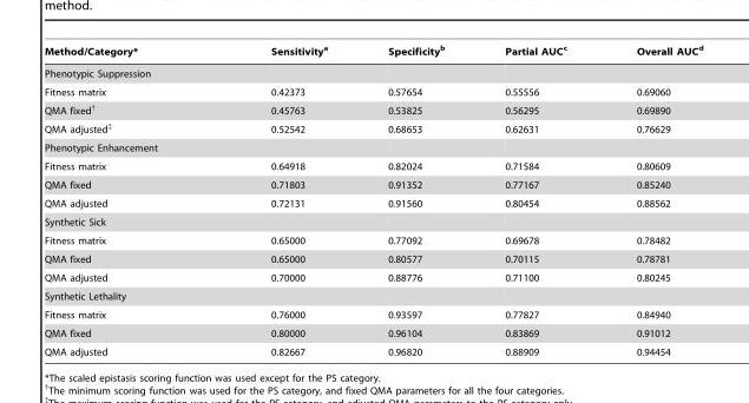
<table><thead><tr><td>Method/Category*</td><td>Sensitivity<sup>a</sup></td><td>Specificity<sup>b</sup></td><td>Partial AUC<sup>c</sup></td><td>Overall AUC<sup>d</sup></td></tr></thead><tbody><tr><td colspan="5">Phenotypic Suppression</td></tr><tr><td>Fitness matrix</td><td>0.42373</td><td>0.57654</td><td>0.55556</td><td>0.69060</td></tr><tr><td>QMA fixed†</td><td>0.45763</td><td>0.53825</td><td>0.56295</td><td>0.69890</td></tr><tr><td>QMA adjusted‡</td><td>0.52542</td><td>0.68653</td><td>0.62631</td><td>0.76629</td></tr><tr><td colspan="5">Phenotypic Enhancement</td></tr><tr><td>Fitness matrix</td><td>0.64918</td><td>0.82024</td><td>0.71584</td><td>0.80609</td></tr><tr><td>QMA fixed</td><td>0.71803</td><td>0.91352</td><td>0.77167</td><td>0.85240</td></tr><tr><td>QMA adjusted</td><td>0.72131</td><td>0.91560</td><td>0.80454</td><td>0.88562</td></tr><tr><td colspan="5">Synthetic Sick</td></tr><tr><td>Fitness matrix</td><td>0.65000</td><td>0.77092</td><td>0.69678</td><td>0.78482</td></tr><tr><td>QMA fixed</td><td>0.65000</td><td>0.80577</td><td>0.70115</td><td>0.78781</td></tr><tr><td>QMA adjusted</td><td>0.70000</td><td>0.88776</td><td>0.71100</td><td>0.80245</td></tr><tr><td colspan="5">Synthetic Lethality</td></tr><tr><td>Fitness matrix</td><td>0.76000</td><td>0.93597</td><td>0.77827</td><td>0.84940</td></tr><tr><td>QMA fixed</td><td>0.80000</td><td>0.96104</td><td>0.83869</td><td>0.91012</td></tr><tr><td>QMA adjusted</td><td>0.82667</td><td>0.96820</td><td>0.88909</td><td>0.94454</td></tr></tbody></table>